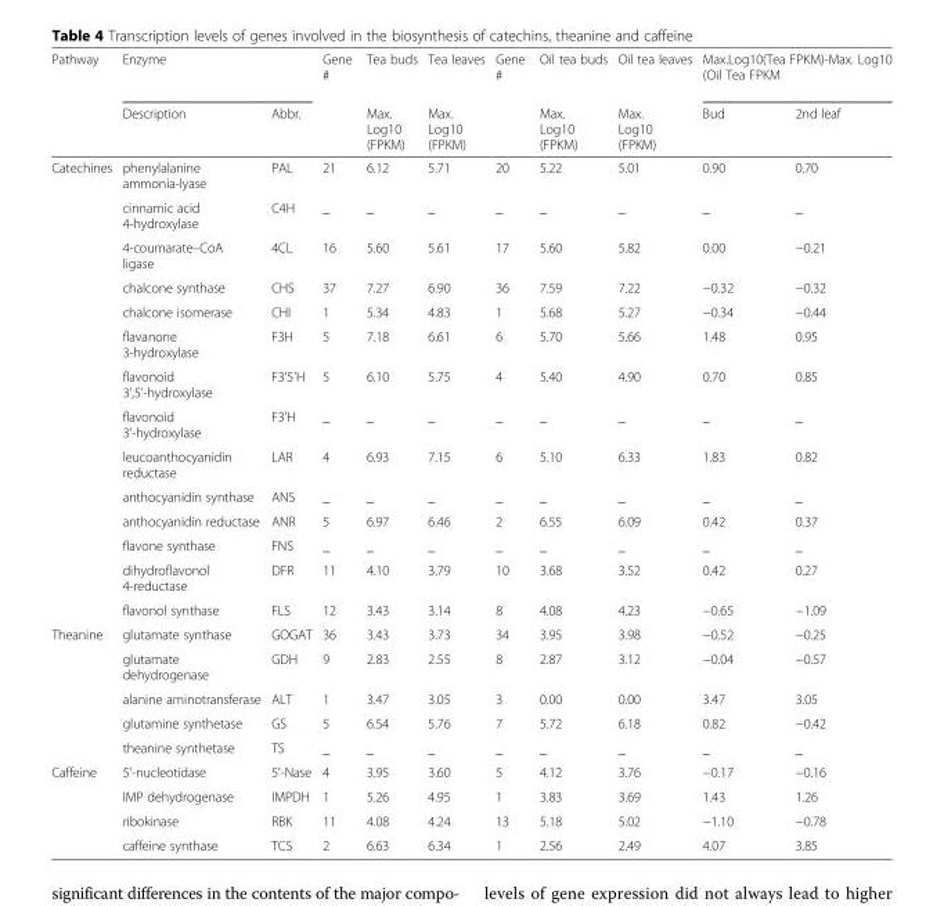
<table><thead><tr><td rowspan="2">Pathway</td><td colspan="2">Enzyme</td><td rowspan="2">Gene #</td><td rowspan="2">Tea buds Max. Log10 (FPKM)</td><td rowspan="2">Tea leaves Max. Log10 (FPKM)</td><td rowspan="2">Gene #</td><td rowspan="2">Oil tea buds Max. Log10 (FPKM)</td><td rowspan="2">Oil tea leaves Max. Log10 (FPKM)</td><td colspan="2">Max.Log10(Tea FPKM)-Max. Log10 (Oil Tea FPKM</td></tr><tr><td>Description</td><td>Abbr.</td><td>Bud</td><td>2nd leaf</td></tr></thead><tbody><tr><td rowspan="14">Catechines</td><td>phenylalanine ammonia-lyase</td><td>PAL</td><td>21</td><td>6.12</td><td>5.71</td><td>20</td><td>5.22</td><td>5.01</td><td>0.90</td><td>0.70</td></tr><tr><td>cinnamic acid 4-hydroxylase</td><td>C4H</td><td>_</td><td>_</td><td>_</td><td>_</td><td>_</td><td>_</td><td>_</td><td>_</td></tr><tr><td>4-coumarate–CoA ligase</td><td>4CL</td><td>16</td><td>5.60</td><td>5.61</td><td>17</td><td>5.60</td><td>5.82</td><td>0.00</td><td>−0.21</td></tr><tr><td>chalcone synthase</td><td>CHS</td><td>37</td><td>7.27</td><td>6.90</td><td>36</td><td>7.59</td><td>7.22</td><td>−0.32</td><td>−0.32</td></tr><tr><td>chalcone isomerase</td><td>CHI</td><td>1</td><td>5.34</td><td>4.83</td><td>1</td><td>5.68</td><td>5.27</td><td>−0.34</td><td>−0.44</td></tr><tr><td>flavanone 3-hydroxylase</td><td>F3H</td><td>5</td><td>7.18</td><td>6.61</td><td>6</td><td>5.70</td><td>5.66</td><td>1.48</td><td>0.95</td></tr><tr><td>flavonoid 3&#x27;,5&#x27;-hydroxylase</td><td>F3&#x27;5&#x27;H</td><td>5</td><td>6.10</td><td>5.75</td><td>4</td><td>5.40</td><td>4.90</td><td>0.70</td><td>0.85</td></tr><tr><td>flavonoid 3&#x27;-hydroxylase</td><td>F3&#x27;H</td><td>_</td><td>_</td><td>_</td><td>_</td><td>_</td><td>_</td><td>_</td><td>_</td></tr><tr><td>leucoanthocyanidin reductase</td><td>LAR</td><td>4</td><td>6.93</td><td>7.15</td><td>6</td><td>5.10</td><td>6.33</td><td>1.83</td><td>0.82</td></tr><tr><td>anthocyanidin synthase</td><td>ANS</td><td>_</td><td>_</td><td>_</td><td>_</td><td>_</td><td>_</td><td>_</td><td>_</td></tr><tr><td>anthocyanidin reductase</td><td>ANR</td><td>5</td><td>6.97</td><td>6.46</td><td>2</td><td>6.55</td><td>6.09</td><td>0.42</td><td>0.37</td></tr><tr><td>flavone synthase</td><td>FNS</td><td>_</td><td>_</td><td>_</td><td>_</td><td>_</td><td>_</td><td>_</td><td>_</td></tr><tr><td>dihydroflavonol 4-reductase</td><td>DFR</td><td>11</td><td>4.10</td><td>3.79</td><td>10</td><td>3.68</td><td>3.52</td><td>0.42</td><td>0.27</td></tr><tr><td>flavonol synthase</td><td>FLS</td><td>12</td><td>3.43</td><td>3.14</td><td>8</td><td>4.08</td><td>4.23</td><td>−0.65</td><td>−1.09</td></tr><tr><td rowspan="5">Theanine</td><td>glutamate synthase</td><td>GOGAT</td><td>36</td><td>3.43</td><td>3.73</td><td>34</td><td>3.95</td><td>3.98</td><td>−0.52</td><td>−0.25</td></tr><tr><td>glutamate dehydrogenase</td><td>GDH</td><td>9</td><td>2.83</td><td>2.55</td><td>8</td><td>2.87</td><td>3.12</td><td>−0.04</td><td>−0.57</td></tr><tr><td>alanine aminotransferase</td><td>ALT</td><td>1</td><td>3.47</td><td>3.05</td><td>3</td><td>0.00</td><td>0.00</td><td>3.47</td><td>3.05</td></tr><tr><td>glutamine synthetase</td><td>GS</td><td>5</td><td>6.54</td><td>5.76</td><td>7</td><td>5.72</td><td>6.18</td><td>0.82</td><td>−0.42</td></tr><tr><td>theanine synthetase</td><td>TS</td><td>_</td><td>_</td><td>_</td><td>_</td><td>_</td><td>_</td><td>_</td><td>_</td></tr><tr><td rowspan="4">Caffeine</td><td>5&#x27;-nucleotidase</td><td>5&#x27;-Nase</td><td>4</td><td>3.95</td><td>3.60</td><td>5</td><td>4.12</td><td>3.76</td><td>−0.17</td><td>−0.16</td></tr><tr><td>IMP dehydrogenase</td><td>IMPDH</td><td>1</td><td>5.26</td><td>4.95</td><td>1</td><td>3.83</td><td>3.69</td><td>1.43</td><td>1.26</td></tr><tr><td>ribokinase</td><td>RBK</td><td>11</td><td>4.08</td><td>4.24</td><td>13</td><td>5.18</td><td>5.02</td><td>−1.10</td><td>−0.78</td></tr><tr><td>caffeine synthase</td><td>TCS</td><td>2</td><td>6.63</td><td>6.34</td><td>1</td><td>2.56</td><td>2.49</td><td>4.07</td><td>3.85</td></tr></tbody></table>